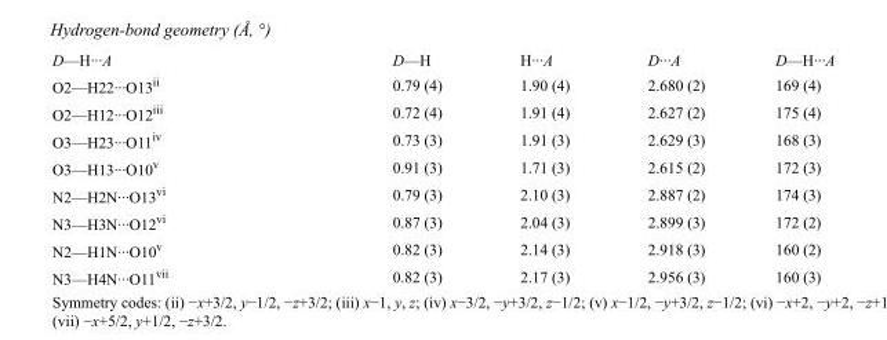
<table><tbody><tr><td>D—H···A</td><td>D—H</td><td>H···A</td><td>D···A</td><td>D—H···A</td></tr><tr><td>O2—H22···O13<sup>ii</sup></td><td>0.79 (4)</td><td>1.90 (4)</td><td>2.680 (2)</td><td>169 (4)</td></tr><tr><td>O2—H12···O12<sup>iii</sup></td><td>0.72 (4)</td><td>1.91 (4)</td><td>2.627 (2)</td><td>175 (4)</td></tr><tr><td>O3—H23···O11<sup>iv</sup></td><td>0.73 (3)</td><td>1.91 (3)</td><td>2.629 (3)</td><td>168 (3)</td></tr><tr><td>O3—H13···O10<sup>v</sup></td><td>0.91 (3)</td><td>1.71 (3)</td><td>2.615 (2)</td><td>172 (3)</td></tr><tr><td>N2—H2N···O13<sup>vi</sup></td><td>0.79 (3)</td><td>2.10 (3)</td><td>2.887 (2)</td><td>174 (3)</td></tr><tr><td>N3—H3N···O12<sup>vi</sup></td><td>0.87 (3)</td><td>2.04 (3)</td><td>2.899 (3)</td><td>172 (2)</td></tr><tr><td>N2—H1N···O10<sup>v</sup></td><td>0.82 (3)</td><td>2.14 (3)</td><td>2.918 (3)</td><td>160 (2)</td></tr><tr><td>N3—H4N···O11<sup>vii</sup></td><td>0.82 (3)</td><td>2.17 (3)</td><td>2.956 (3)</td><td>160 (3)</td></tr></tbody></table>